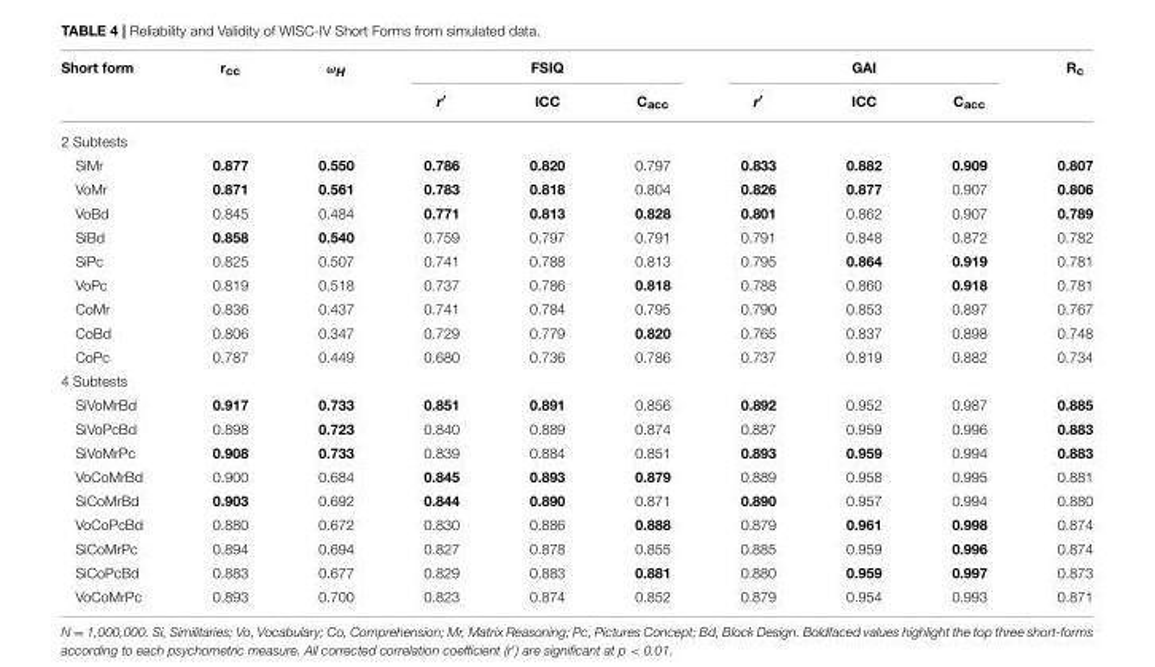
<table><thead><tr><td rowspan="2">Short form</td><td rowspan="2">r<sub>cc</sub></td><td rowspan="2">ω<sub>H</sub></td><td colspan="3">FSIQ</td><td colspan="3">GAI</td><td rowspan="2">R<sub>c</sub></td></tr><tr><td>r′</td><td>ICC</td><td>C<sub>acc</sub></td><td>r′</td><td>ICC</td><td>C<sub>acc</sub></td></tr></thead><tbody><tr><td colspan="10">2 Subtests</td></tr><tr><td>SiMr</td><td>0.877</td><td>0.550</td><td>0.786</td><td>0.820</td><td>0.797</td><td>0.833</td><td>0.882</td><td>0.909</td><td>0.807</td></tr><tr><td>VoMr</td><td>0.871</td><td>0.561</td><td>0.783</td><td>0.818</td><td>0.804</td><td>0.826</td><td>0.877</td><td>0.907</td><td>0.806</td></tr><tr><td>VoBd</td><td>0.845</td><td>0.484</td><td>0.771</td><td>0.813</td><td>0.828</td><td>0.801</td><td>0.862</td><td>0.907</td><td>0.789</td></tr><tr><td>SiBd</td><td>0.858</td><td>0.540</td><td>0.759</td><td>0.797</td><td>0.791</td><td>0.791</td><td>0.848</td><td>0.872</td><td>0.782</td></tr><tr><td>SiPc</td><td>0.825</td><td>0.507</td><td>0.741</td><td>0.788</td><td>0.813</td><td>0.795</td><td>0.864</td><td>0.919</td><td>0.781</td></tr><tr><td>VoPc</td><td>0.819</td><td>0.518</td><td>0.737</td><td>0.786</td><td>0.818</td><td>0.788</td><td>0.860</td><td>0.918</td><td>0.781</td></tr><tr><td>CoMr</td><td>0.836</td><td>0.437</td><td>0.741</td><td>0.784</td><td>0.795</td><td>0.790</td><td>0.853</td><td>0.897</td><td>0.767</td></tr><tr><td>CoBd</td><td>0.806</td><td>0.347</td><td>0.729</td><td>0.779</td><td>0.820</td><td>0.765</td><td>0.837</td><td>0.898</td><td>0.748</td></tr><tr><td>CoPc</td><td>0.787</td><td>0.449</td><td>0.680</td><td>0.736</td><td>0.786</td><td>0.737</td><td>0.819</td><td>0.882</td><td>0.734</td></tr><tr><td colspan="10">4 Subtests</td></tr><tr><td>SiVoMrBd</td><td>0.917</td><td>0.733</td><td>0.851</td><td>0.891</td><td>0.856</td><td>0.892</td><td>0.952</td><td>0.987</td><td>0.885</td></tr><tr><td>SiVoPcBd</td><td>0.898</td><td>0.723</td><td>0.840</td><td>0.889</td><td>0.874</td><td>0.887</td><td>0.959</td><td>0.996</td><td>0.883</td></tr><tr><td>SiVoMrPc</td><td>0.908</td><td>0.733</td><td>0.839</td><td>0.884</td><td>0.851</td><td>0.893</td><td>0.959</td><td>0.994</td><td>0.883</td></tr><tr><td>VoCoMrBd</td><td>0.900</td><td>0.684</td><td>0.845</td><td>0.893</td><td>0.879</td><td>0.889</td><td>0.958</td><td>0.995</td><td>0.881</td></tr><tr><td>SiCoMrBd</td><td>0.903</td><td>0.692</td><td>0.844</td><td>0.890</td><td>0.871</td><td>0.890</td><td>0.957</td><td>0.994</td><td>0.880</td></tr><tr><td>VoCoPcBd</td><td>0.880</td><td>0.672</td><td>0.830</td><td>0.886</td><td>0.888</td><td>0.879</td><td>0.961</td><td>0.998</td><td>0.874</td></tr><tr><td>SiCoMrPc</td><td>0.894</td><td>0.694</td><td>0.827</td><td>0.878</td><td>0.855</td><td>0.885</td><td>0.959</td><td>0.996</td><td>0.874</td></tr><tr><td>SiCoPcBd</td><td>0.883</td><td>0.677</td><td>0.829</td><td>0.883</td><td>0.881</td><td>0.880</td><td>0.959</td><td>0.997</td><td>0.873</td></tr><tr><td>VoCoMrPc</td><td>0.893</td><td>0.700</td><td>0.823</td><td>0.874</td><td>0.852</td><td>0.879</td><td>0.954</td><td>0.993</td><td>0.871</td></tr></tbody></table>